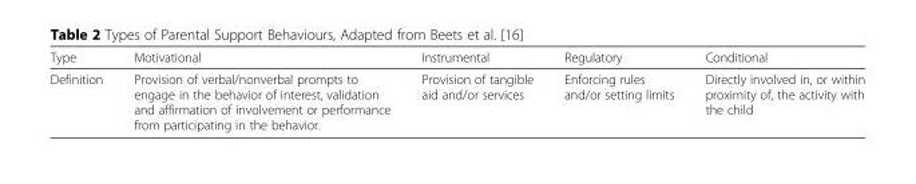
<table><thead><tr><td>Type</td><td>Motivational</td><td>Instrumental</td><td>Regulatory</td><td>Conditional</td></tr></thead><tbody><tr><td>Definition</td><td>Provision of verbal/nonverbal prompts to engage in the behavior of interest, validation and affirmation of involvement or performance from participating in the behavior.</td><td>Provision of tangible aid and/or services</td><td>Enforcing rules and/or setting limits</td><td>Directly involved in, or within proximity of, the activity with the child</td></tr></tbody></table>